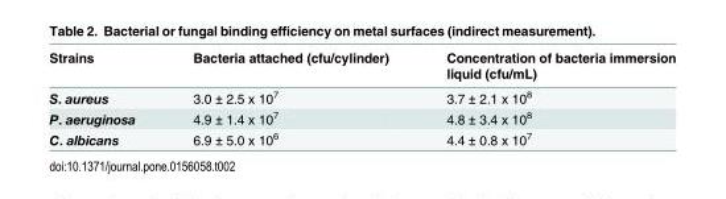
<table><thead><tr><td>Strains</td><td>Bacteria attached (cfu/cylinder)</td><td>Concentration of bacteria immersion liquid (cfu/mL)</td></tr></thead><tbody><tr><td>S. aureus</td><td>3.0 ± 2.5 x 10<sup>7</sup></td><td>3.7 ± 2.1 x 10<sup>8</sup></td></tr><tr><td>P. aeruginosa</td><td>4.9 ± 1.4 x 10<sup>7</sup></td><td>4.8 ± 3.4 x 10<sup>8</sup></td></tr><tr><td>C. albicans</td><td>6.9 ± 5.0 x 10<sup>6</sup></td><td>4.4 ± 0.8 x 10<sup>7</sup></td></tr></tbody></table>